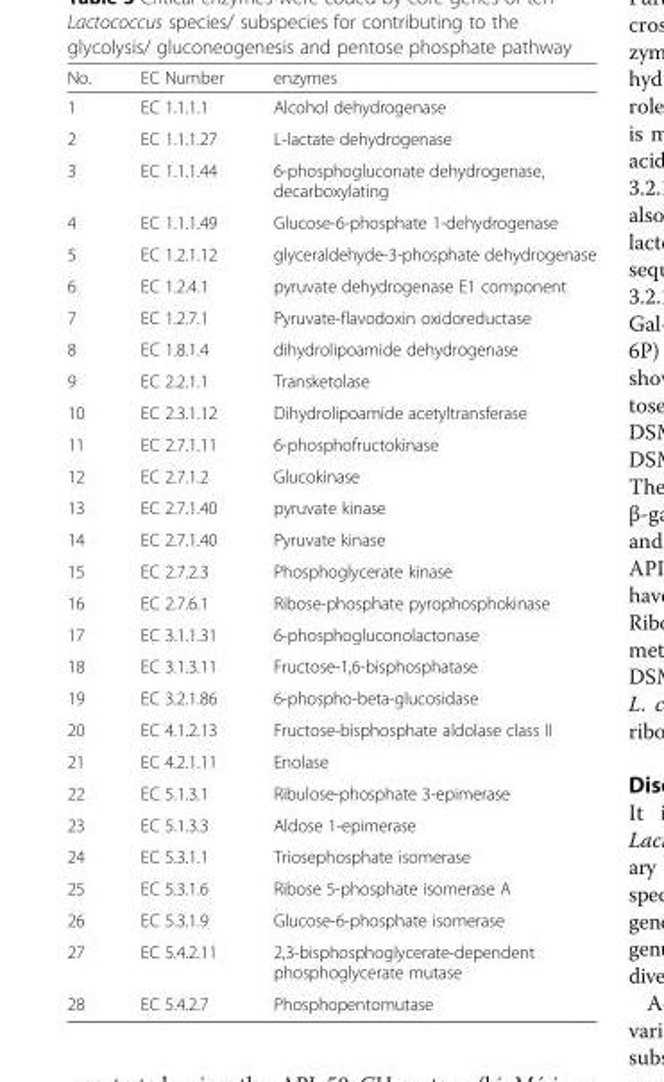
<table><thead><tr><td>No.</td><td>EC Number</td><td>enzymes</td></tr></thead><tbody><tr><td>1</td><td>EC 1.1.1.1</td><td>Alcohol dehydrogenase</td></tr><tr><td>2</td><td>EC 1.1.1.27</td><td>L-lactate dehydrogenase</td></tr><tr><td>3</td><td>EC 1.1.1.44</td><td>6-phosphogluconate dehydrogenase, decarboxylating</td></tr><tr><td>4</td><td>EC 1.1.1.49</td><td>Glucose-6-phosphate 1-dehydrogenase</td></tr><tr><td>5</td><td>EC 1.2.1.12</td><td>glyceraldehyde-3-phosphate dehydrogenase</td></tr><tr><td>6</td><td>EC 1.2.4.1</td><td>pyruvate dehydrogenase E1 component</td></tr><tr><td>7</td><td>EC 1.2.7.1</td><td>Pyruvate-flavodoxin oxidoreductase</td></tr><tr><td>8</td><td>EC 1.8.1.4</td><td>dihydrolipoamide dehydrogenase</td></tr><tr><td>9</td><td>EC 2.2.1.1</td><td>Transketolase</td></tr><tr><td>10</td><td>EC 2.3.1.12</td><td>Dihydrolipoamide acetyltransferase</td></tr><tr><td>11</td><td>EC 2.7.1.11</td><td>6-phosphofructokinase</td></tr><tr><td>12</td><td>EC 2.7.1.2</td><td>Glucokinase</td></tr><tr><td>13</td><td>EC 2.7.1.40</td><td>pyruvate kinase</td></tr><tr><td>14</td><td>EC 2.7.1.40</td><td>Pyruvate kinase</td></tr><tr><td>15</td><td>EC 2.7.2.3</td><td>Phosphoglycerate kinase</td></tr><tr><td>16</td><td>EC 2.7.6.1</td><td>Ribose-phosphate pyrophosphokinase</td></tr><tr><td>17</td><td>EC 3.1.1.31</td><td>6-phosphogluconolactonase</td></tr><tr><td>18</td><td>EC 3.1.3.11</td><td>Fructose-1,6-bisphosphatase</td></tr><tr><td>19</td><td>EC 3.2.1.86</td><td>6-phospho-beta-glucosidase</td></tr><tr><td>20</td><td>EC 4.1.2.13</td><td>Fructose-bisphosphate aldolase class II</td></tr><tr><td>21</td><td>EC 4.2.1.11</td><td>Enolase</td></tr><tr><td>22</td><td>EC 5.1.3.1</td><td>Ribulose-phosphate 3-epimerase</td></tr><tr><td>23</td><td>EC 5.1.3.3</td><td>Aldose 1-epimerase</td></tr><tr><td>24</td><td>EC 5.3.1.1</td><td>Triosephosphate isomerase</td></tr><tr><td>25</td><td>EC 5.3.1.6</td><td>Ribose 5-phosphate isomerase A</td></tr><tr><td>26</td><td>EC 5.3.1.9</td><td>Glucose-6-phosphate isomerase</td></tr><tr><td>27</td><td>EC 5.4.2.11</td><td>2,3-bisphosphoglycerate-dependent phosphoglycerate mutase</td></tr><tr><td>28</td><td>EC 5.4.2.7</td><td>Phosphopentomutase</td></tr></tbody></table>